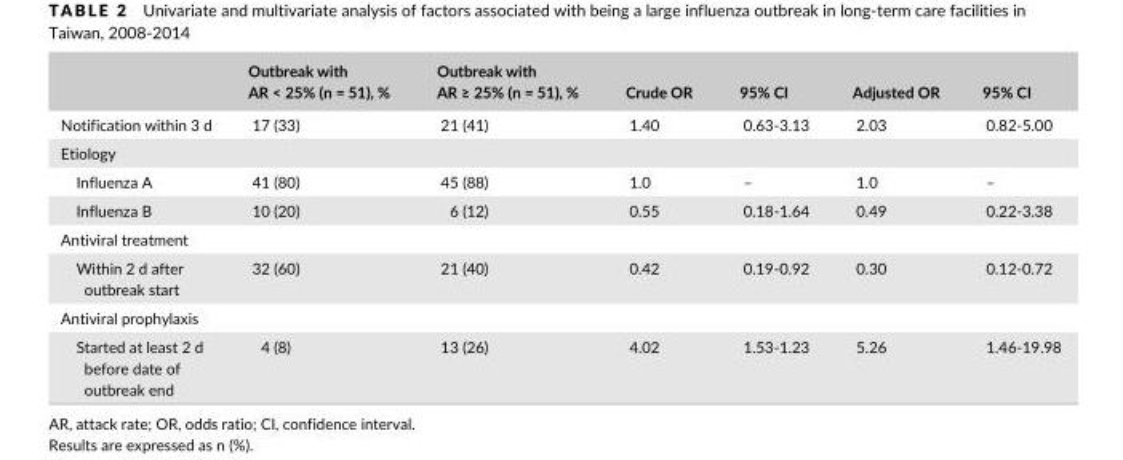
<table><thead><tr><td></td><td>Outbreak with AR &lt; 25% (n = 51), %</td><td>Outbreak with AR ≥ 25% (n = 51), %</td><td>Crude OR</td><td>95% CI</td><td>Adjusted OR</td><td>95% CI</td></tr></thead><tbody><tr><td>Notification within 3 d</td><td>17 (33)</td><td>21 (41)</td><td>1.40</td><td>0.63- 3.13</td><td>2.03</td><td>0.82- 5.00</td></tr><tr><td colspan="7">Etiology</td></tr><tr><td>Influenza A</td><td>41 (80)</td><td>45 (88)</td><td>1.0</td><td>–</td><td>1.0</td><td>–</td></tr><tr><td>Influenza B</td><td>10 (20)</td><td>6 (12)</td><td>0.55</td><td>0.18- 1.64</td><td>0.49</td><td>0.22- 3.38</td></tr><tr><td colspan="7">Antiviral treatment</td></tr><tr><td>Within 2 d after outbreak start</td><td>32 (60)</td><td>21 (40)</td><td>0.42</td><td>0.19- 0.92</td><td>0.30</td><td>0.12- 0.72</td></tr><tr><td colspan="7">Antiviral prophylaxis</td></tr><tr><td>Started at least 2 d before date of outbreak end</td><td>4 (8)</td><td>13 (26)</td><td>4.02</td><td>1.53- 1.23</td><td>5.26</td><td>1.46- 19.98</td></tr></tbody></table>